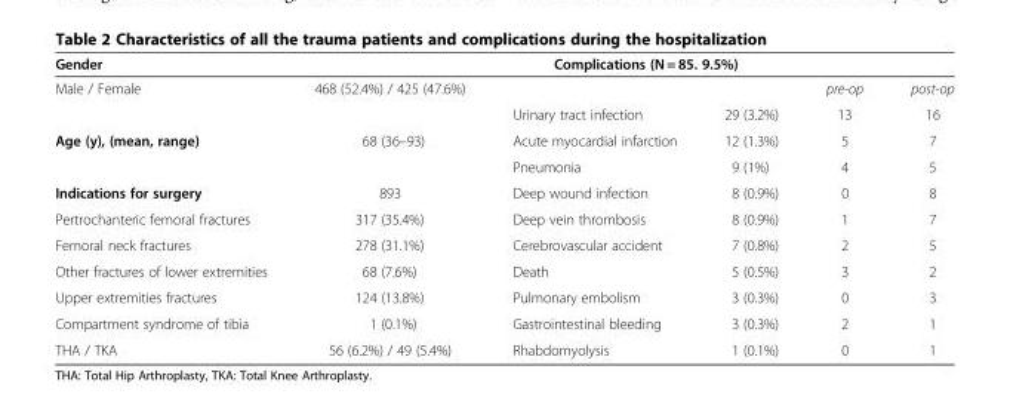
<table><thead><tr><td rowspan="2">Gender Male / Female</td><td rowspan="2">468 (52.4%) / 425 (47.6%)</td><td colspan="2">Complications (N = 85. 9.5%)</td><td rowspan="2">pre-op</td><td rowspan="2">post-op</td></tr><tr><td></td><td></td></tr></thead><tbody><tr><td></td><td></td><td>Urinary tract infection</td><td>29 (3.2%)</td><td>13</td><td>16</td></tr><tr><td rowspan="2">Age (y), (mean, range)</td><td>68 (36–93)</td><td>Acute myocardial infarction</td><td>12 (1.3%)</td><td>5</td><td>7</td></tr><tr><td></td><td>Pneumonia</td><td>9 (1%)</td><td>4</td><td>5</td></tr><tr><td>Indications for surgery</td><td>893</td><td>Deep wound infection</td><td>8 (0.9%)</td><td>0</td><td>8</td></tr><tr><td>Pertrochanteric femoral fractures</td><td>317 (35.4%)</td><td>Deep vein thrombosis</td><td>8 (0.9%)</td><td>1</td><td>7</td></tr><tr><td>Femoral neck fractures</td><td>278 (31.1%)</td><td>Cerebrovascular accident</td><td>7 (0.8%)</td><td>2</td><td>5</td></tr><tr><td>Other fractures of lower extremities</td><td>68 (7.6%)</td><td>Death</td><td>5 (0.5%)</td><td>3</td><td>2</td></tr><tr><td>Upper extremities fractures</td><td>124 (13.8%)</td><td>Pulmonary embolism</td><td>3 (0.3%)</td><td>0</td><td>3</td></tr><tr><td>Compartment syndrome of tibia</td><td>1 (0.1%)</td><td>Gastrointestinal bleeding</td><td>3 (0.3%)</td><td>2</td><td>1</td></tr><tr><td>THA / TKA</td><td>56 (6.2%) / 49 (5.4%)</td><td>Rhabdomyolysis</td><td>1 (0.1%)</td><td>0</td><td>1</td></tr></tbody></table>